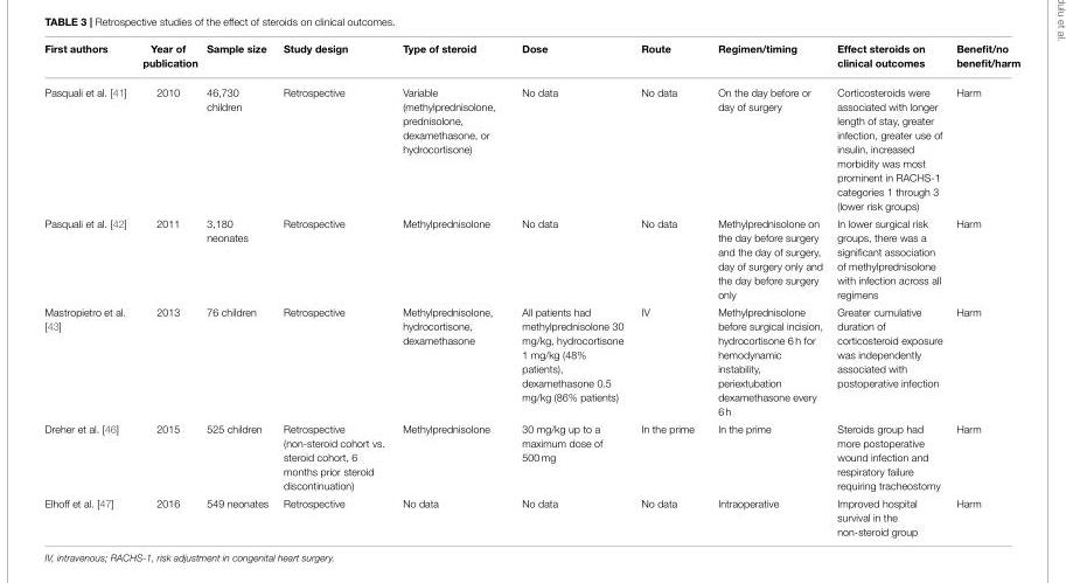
<table><thead><tr><td>First authors</td><td>Year of publication</td><td>Sample size</td><td>Study design</td><td>Type of steroid</td><td>Dose</td><td>Route</td><td>Regimen/timing</td><td>Effect steroids on clinical outcomes</td><td>Benefit/no benefit/harm</td></tr></thead><tbody><tr><td>Pasquali et al. [41]</td><td>2010</td><td>46,730 children</td><td>Retrospective</td><td>Variable (methylprednisolone, prednisolone, dexamethasone, or hydrocortisone)</td><td>No data</td><td>No data</td><td>On the day before or day of surgery</td><td>Corticosteroids were associated with longer length of stay, greater infection, greater use of insulin, increased morbidity was most prominent in RACHS-1 categories 1 through 3 (lower risk groups)</td><td>Harm</td></tr><tr><td>Pasquali et al. [42]</td><td>2011</td><td>3,180 neonates</td><td>Retrospective</td><td>Methylprednisolone</td><td>No data</td><td>No data</td><td>Methylprednisolone on the day before surgery and the day of surgery, day of surgery only and the day before surgery only</td><td>In lower surgical risk groups, there was a significant association of methylprednisolone with infection across all regimens</td><td>Harm</td></tr><tr><td>Mastropietro et al. [43]</td><td>2013</td><td>76 children</td><td>Retrospective</td><td>Methylprednisolone, hydrocortisone, dexamethasone</td><td>All patients had methylprednisolone 30 mg/kg, hydrocortisone 1 mg/kg (48% patients), dexamethasone 0.5 mg/kg (86% patients)</td><td>IV</td><td>Methylprednisolone before surgical incision, hydrocortisone 6 h for hemodynamic instability, periextubation dexamethasone every 6 h</td><td>Greater cumulative duration of corticosteroid exposure was independently associated with postoperative infection</td><td>Harm</td></tr><tr><td>Dreher et al. [46]</td><td>2015</td><td>525 children</td><td>Retrospective (non-steroid cohort vs. steroid cohort, 6 months prior steroid discontinuation)</td><td>Methylprednisolone</td><td>30 mg/kg up to a maximum dose of 500 mg</td><td>In the prime</td><td>In the prime</td><td>Steroids group had more postoperative wound infection and respiratory failure requiring tracheostomy</td><td>Harm</td></tr><tr><td>Elhoff et al. [47]</td><td>2016</td><td>549 neonates</td><td>Retrospective</td><td>No data</td><td>No data</td><td>No data</td><td>Intraoperative</td><td>Improved hospital survival in the non-steroid group</td><td>Harm</td></tr></tbody></table>